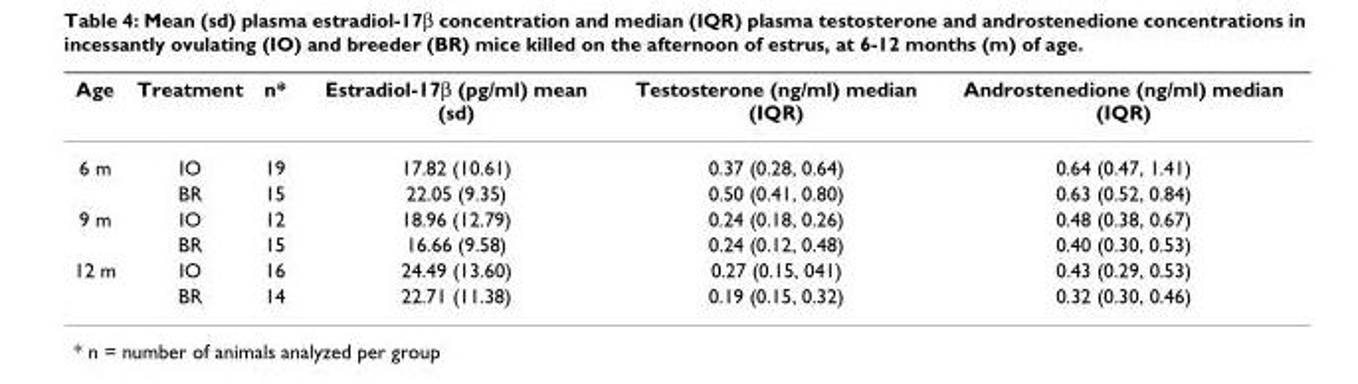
<table><thead><tr><td>Age</td><td>Treatment</td><td>n*</td><td>Estradiol-17β (pg/ml) mean (sd)</td><td>Testosterone (ng/ml) median (IQR)</td><td>Androstenedione (ng/ml) median (IQR)</td></tr></thead><tbody><tr><td rowspan="2">6 m</td><td>IO</td><td>19</td><td>17.82 (10.61)</td><td>0.37 (0.28, 0.64)</td><td>0.64 (0.47, 1.41)</td></tr><tr><td>BR</td><td>15</td><td>22.05 (9.35)</td><td>0.50 (0.41, 0.80)</td><td>0.63 (0.52, 0.84)</td></tr><tr><td rowspan="2">9 m</td><td>IO</td><td>12</td><td>18.96 (12.79)</td><td>0.24 (0.18, 0.26)</td><td>0.48 (0.38, 0.67)</td></tr><tr><td>BR</td><td>15</td><td>16.66 (9.58)</td><td>0.24 (0.12, 0.48)</td><td>0.40 (0.30, 0.53)</td></tr><tr><td rowspan="2">12 m</td><td>IO</td><td>16</td><td>24.49 (13.60)</td><td>0.27 (0.15, 041)</td><td>0.43 (0.29, 0.53)</td></tr><tr><td>BR</td><td>14</td><td>22.71 (11.38)</td><td>0.19 (0.15, 0.32)</td><td>0.32 (0.30, 0.46)</td></tr></tbody></table>